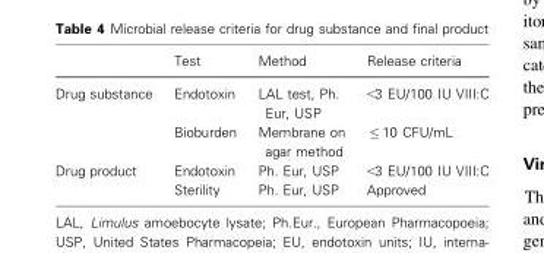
<table><thead><tr><td></td><td>Test</td><td>Method</td><td>Release criteria</td></tr></thead><tbody><tr><td rowspan="2">Drug substance</td><td>Endotoxin</td><td>LAL test, Ph. Eur, USP</td><td>&lt;3 EU/100 IU VIII:C</td></tr><tr><td>Bioburden</td><td>Membrane on agar method</td><td>≤ 10 CFU/mL</td></tr><tr><td rowspan="2">Drug product</td><td>Endotoxin</td><td>Ph. Eur, USP</td><td>&lt;3 EU/100 IU VIII:C</td></tr><tr><td>Sterility</td><td>Ph. Eur, USP</td><td>Approved</td></tr></tbody></table>